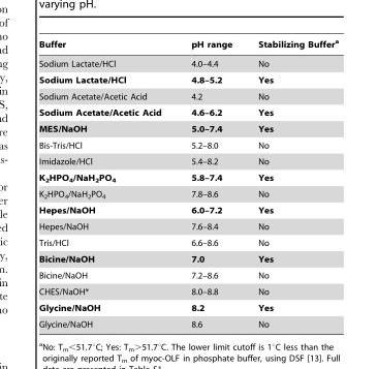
<table><thead><tr><td>Buffer</td><td>pH range</td><td>Stabilizing Buffer<sup>a</sup></td></tr></thead><tbody><tr><td>Sodium Lactate/HCl</td><td>4.0–4.4</td><td>No</td></tr><tr><td>Sodium Lactate/HCl</td><td>4.8–5.2</td><td>Yes</td></tr><tr><td>Sodium Acetate/Acetic Acid</td><td>4.2</td><td>No</td></tr><tr><td>Sodium Acetate/Acetic Acid</td><td>4.6–6.2</td><td>Yes</td></tr><tr><td>MES/NaOH</td><td>5.0–7.4</td><td>Yes</td></tr><tr><td>Bis-Tris/HCl</td><td>5.2–8.0</td><td>No</td></tr><tr><td>Imidazole/HCl</td><td>5.4–8.2</td><td>No</td></tr><tr><td>K<sub>2</sub>HPO<sub>4</sub>/NaH<sub>2</sub>PO<sub>4</sub></td><td>5.8–7.4</td><td>Yes</td></tr><tr><td>K<sub>2</sub>HPO<sub>4</sub>/NaH<sub>2</sub>PO<sub>4</sub></td><td>7.8–8.6</td><td>No</td></tr><tr><td>Hepes/NaOH</td><td>6.0–7.2</td><td>Yes</td></tr><tr><td>Hepes/NaOH</td><td>7.6–8.4</td><td>No</td></tr><tr><td>Tris/HCl</td><td>6.6–8.6</td><td>No</td></tr><tr><td>Bicine/NaOH</td><td>7.0</td><td>Yes</td></tr><tr><td>Bicine/NaOH</td><td>7.2–8.6</td><td>No</td></tr><tr><td>CHES/NaOH*</td><td>8.0–8.8</td><td>No</td></tr><tr><td>Glycine/NaOH</td><td>8.2</td><td>Yes</td></tr><tr><td>Glycine/NaOH</td><td>8.6</td><td>No</td></tr></tbody></table>